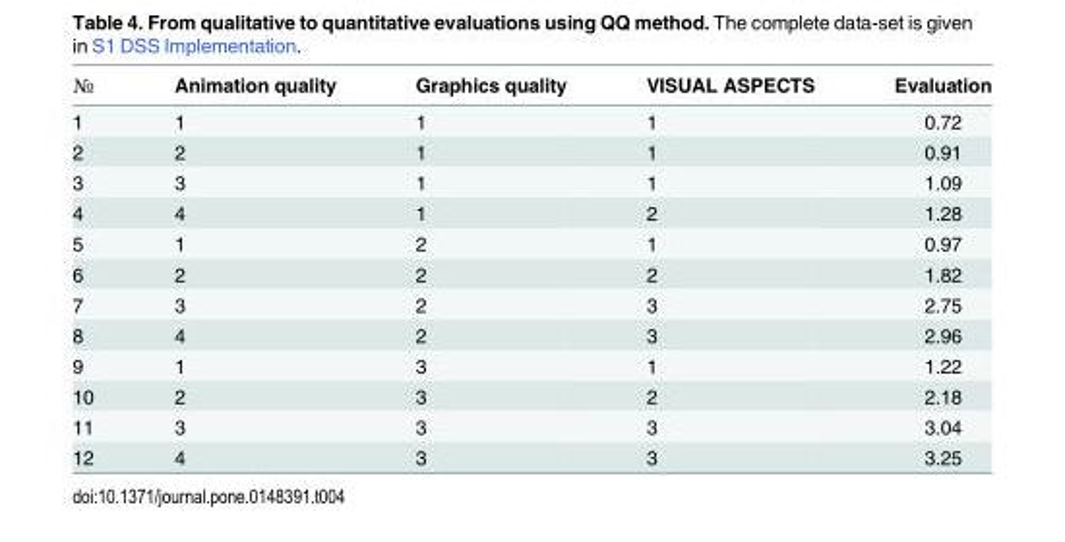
<table><thead><tr><td>№</td><td>Animation quality</td><td>Graphics quality</td><td>VISUAL ASPECTS</td><td>Evaluation</td></tr></thead><tbody><tr><td>1</td><td>1</td><td>1</td><td>1</td><td>0.72</td></tr><tr><td>2</td><td>2</td><td>1</td><td>1</td><td>0.91</td></tr><tr><td>3</td><td>3</td><td>1</td><td>1</td><td>1.09</td></tr><tr><td>4</td><td>4</td><td>1</td><td>2</td><td>1.28</td></tr><tr><td>5</td><td>1</td><td>2</td><td>1</td><td>0.97</td></tr><tr><td>6</td><td>2</td><td>2</td><td>2</td><td>1.82</td></tr><tr><td>7</td><td>3</td><td>2</td><td>3</td><td>2.75</td></tr><tr><td>8</td><td>4</td><td>2</td><td>3</td><td>2.96</td></tr><tr><td>9</td><td>1</td><td>3</td><td>1</td><td>1.22</td></tr><tr><td>10</td><td>2</td><td>3</td><td>2</td><td>2.18</td></tr><tr><td>11</td><td>3</td><td>3</td><td>3</td><td>3.04</td></tr><tr><td>12</td><td>4</td><td>3</td><td>3</td><td>3.25</td></tr></tbody></table>